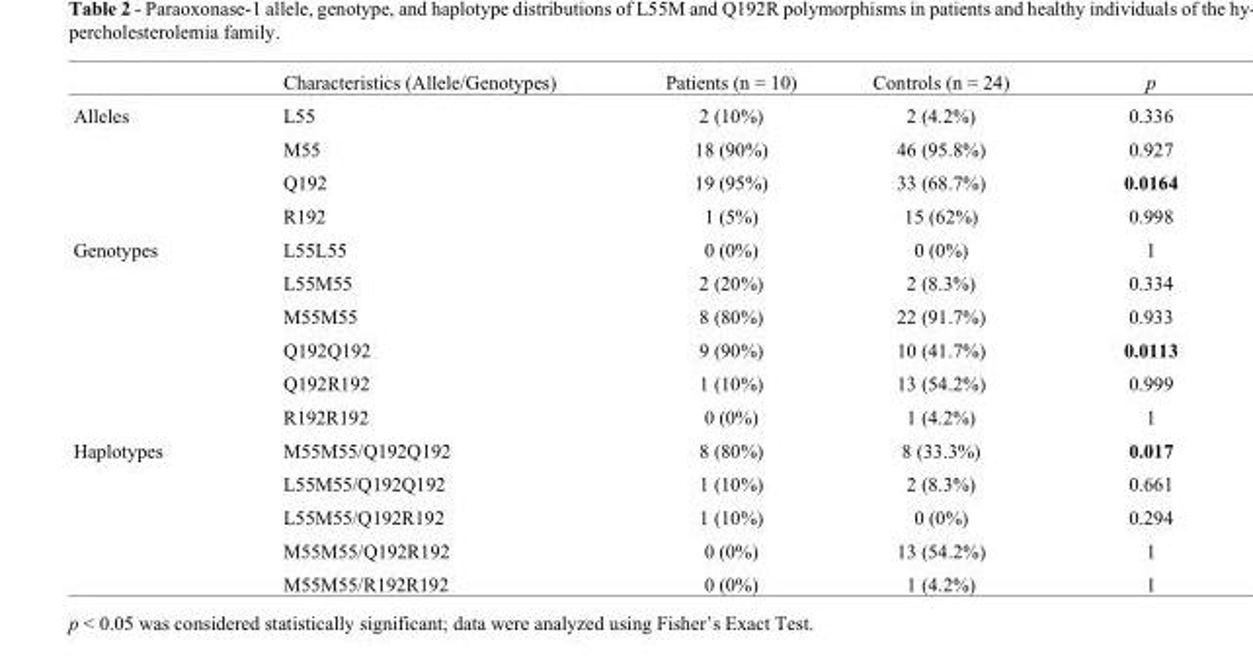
<table><thead><tr><td></td><td>Characteristics (Allele/Genotypes)</td><td>Patients (n = 10)</td><td>Controls (n = 24)</td><td>p</td></tr></thead><tbody><tr><td rowspan="4">Alleles</td><td>L55</td><td>2 (10%)</td><td>2 (4.2%)</td><td>0.336</td></tr><tr><td>M55</td><td>18 (90%)</td><td>46 (95.8%)</td><td>0.927</td></tr><tr><td>Q192</td><td>19 (95%)</td><td>33 (68.7%)</td><td>0.0164</td></tr><tr><td>R192</td><td>1 (5%)</td><td>15 (62%)</td><td>0.998</td></tr><tr><td rowspan="6">Genotypes</td><td>L55L55</td><td>0 (0%)</td><td>0 (0%)</td><td>1</td></tr><tr><td>L55M55</td><td>2 (20%)</td><td>2 (8.3%)</td><td>0.334</td></tr><tr><td>M55M55</td><td>8 (80%)</td><td>22 (91.7%)</td><td>0.933</td></tr><tr><td>Q192Q192</td><td>9 (90%)</td><td>10 (41.7%)</td><td>0.0113</td></tr><tr><td>Q192R192</td><td>1 (10%)</td><td>13 (54.2%)</td><td>0.999</td></tr><tr><td>R192R192</td><td>0 (0%)</td><td>1 (4.2%)</td><td>1</td></tr><tr><td rowspan="5">Haplotypes</td><td>M55M55/Q192Q192</td><td>8 (80%)</td><td>8 (33.3%)</td><td>0.017</td></tr><tr><td>L55M55/Q192Q192</td><td>1 (10%)</td><td>2 (8.3%)</td><td>0.661</td></tr><tr><td>L55M55/Q192R192</td><td>1 (10%)</td><td>0 (0%)</td><td>0.294</td></tr><tr><td>M55M55/Q192R192</td><td>0 (0%)</td><td>13 (54.2%)</td><td>1</td></tr><tr><td>M55M55/R192R192</td><td>0 (0%)</td><td>1 (4.2%)</td><td>1</td></tr></tbody></table>